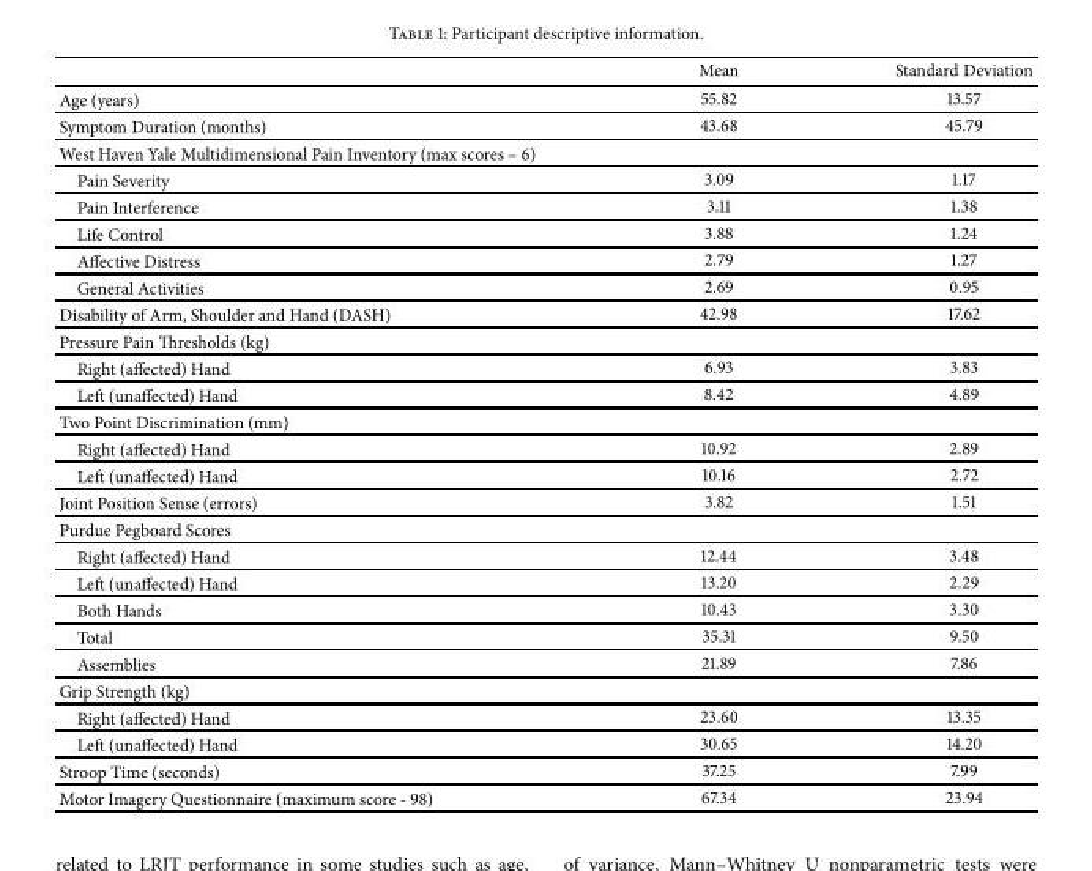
<table><thead><tr><td></td><td>Mean</td><td>Standard Deviation</td></tr></thead><tbody><tr><td>Age (years)</td><td>55.82</td><td>13.57</td></tr><tr><td>Symptom Duration (months)</td><td>43.68</td><td>45.79</td></tr><tr><td colspan="3">West Haven Yale Multidimensional Pain Inventory (max scores – 6)</td></tr><tr><td>Pain Severity</td><td>3.09</td><td>1.17</td></tr><tr><td>Pain Interference</td><td>3.11</td><td>1.38</td></tr><tr><td>Life Control</td><td>3.88</td><td>1.24</td></tr><tr><td>Affective Distress</td><td>2.79</td><td>1.27</td></tr><tr><td>General Activities</td><td>2.69</td><td>0.95</td></tr><tr><td>Disability of Arm, Shoulder and Hand (DASH)</td><td>42.98</td><td>17.62</td></tr><tr><td colspan="3">Pressure Pain Thresholds (kg)</td></tr><tr><td>Right (affected) Hand</td><td>6.93</td><td>3.83</td></tr><tr><td>Left (unaffected) Hand</td><td>8.42</td><td>4.89</td></tr><tr><td colspan="3">Two Point Discrimination (mm)</td></tr><tr><td>Right (affected) Hand</td><td>10.92</td><td>2.89</td></tr><tr><td>Left (unaffected) Hand</td><td>10.16</td><td>2.72</td></tr><tr><td>Joint Position Sense (errors)</td><td>3.82</td><td>1.51</td></tr><tr><td colspan="3">Purdue Pegboard Scores</td></tr><tr><td>Right (affected) Hand</td><td>12.44</td><td>3.48</td></tr><tr><td>Left (unaffected) Hand</td><td>13.20</td><td>2.29</td></tr><tr><td>Both Hands</td><td>10.43</td><td>3.30</td></tr><tr><td>Total</td><td>35.31</td><td>9.50</td></tr><tr><td>Assemblies</td><td>21.89</td><td>7.86</td></tr><tr><td colspan="3">Grip Strength (kg)</td></tr><tr><td>Right (affected) Hand</td><td>23.60</td><td>13.35</td></tr><tr><td>Left (unaffected) Hand</td><td>30.65</td><td>14.20</td></tr><tr><td>Stroop Time (seconds)</td><td>37.25</td><td>7.99</td></tr><tr><td>Motor Imagery Questionnaire (maximum score - 98)</td><td>67.34</td><td>23.94</td></tr></tbody></table>